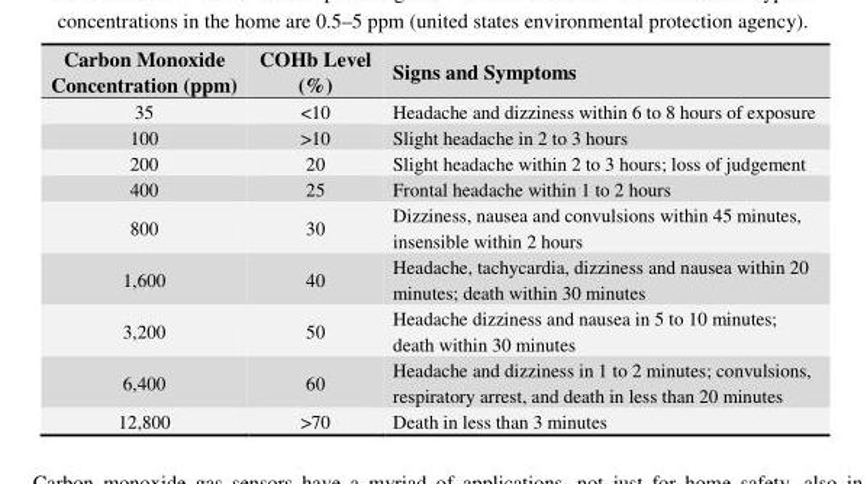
<table><thead><tr><td>Carbon Monoxide Concentration (ppm)</td><td>COHb Level (%)</td><td>Signs and Symptoms</td></tr></thead><tbody><tr><td>35</td><td>&lt;10</td><td>Headache and dizziness within 6 to 8 hours of exposure</td></tr><tr><td>100</td><td>&gt;10</td><td>Slight headache in 2 to 3 hours</td></tr><tr><td>200</td><td>20</td><td>Slight headache within 2 to 3 hours; loss of judgement</td></tr><tr><td>400</td><td>25</td><td>Frontal headache within 1 to 2 hours</td></tr><tr><td>800</td><td>30</td><td>Dizziness, nausea and convulsions within 45 minutes, insensible within 2 hours</td></tr><tr><td>1,600</td><td>40</td><td>Headache, tachycardia, dizziness and nausea within 20 minutes; death within 30 minutes</td></tr><tr><td>3,200</td><td>50</td><td>Headache dizziness and nausea in 5 to 10 minutes; death within 30 minutes</td></tr><tr><td>6,400</td><td>60</td><td>Headache and dizziness in 1 to 2 minutes; convulsions, respiratory arrest, and death in less than 20 minutes</td></tr><tr><td>12,800</td><td>&gt;70</td><td>Death in less than 3 minutes</td></tr></tbody></table>